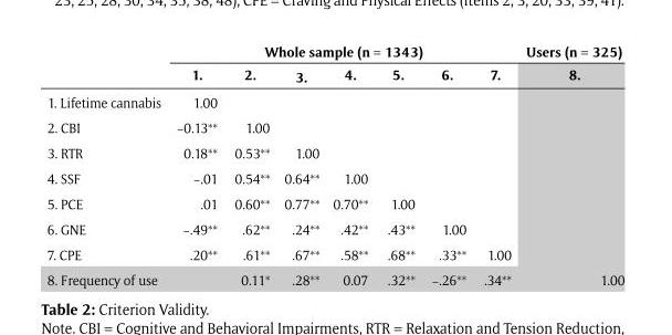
<table><thead><tr><td rowspan="2"></td><td colspan="7">Whole sample (n = 1343)</td><td rowspan="2">Users (n = 325) 8.</td></tr><tr><td>1.</td><td>2.</td><td>3.</td><td>4.</td><td>5.</td><td>6.</td><td>7.</td></tr></thead><tbody><tr><td>1. Lifetime cannabis</td><td>1.00</td><td></td><td></td><td></td><td></td><td></td><td></td><td></td></tr><tr><td>2. CBI</td><td>−0.13**</td><td>1.00</td><td></td><td></td><td></td><td></td><td></td><td></td></tr><tr><td>3. RTR</td><td>0.18**</td><td>0.53**</td><td>1.00</td><td></td><td></td><td></td><td></td><td></td></tr><tr><td>4. SSF</td><td>−.01</td><td>0.54**</td><td>0.64**</td><td>1.00</td><td></td><td></td><td></td><td></td></tr><tr><td>5. PCE</td><td>.01</td><td>0.60**</td><td>0.77**</td><td>0.70**</td><td>1.00</td><td></td><td></td><td></td></tr><tr><td>6. GNE</td><td>−.49**</td><td>.62**</td><td>.24**</td><td>.42**</td><td>.43**</td><td>1.00</td><td></td><td></td></tr><tr><td>7. CPE</td><td>.20**</td><td>.61**</td><td>.67**</td><td>.58**</td><td>.68**</td><td>.33**</td><td>1.00</td><td></td></tr><tr><td>8. Frequency of use</td><td></td><td>0.11*</td><td>.28**</td><td>0.07</td><td>.32**</td><td>−.26**</td><td>.34**</td><td>1.00</td></tr></tbody></table>